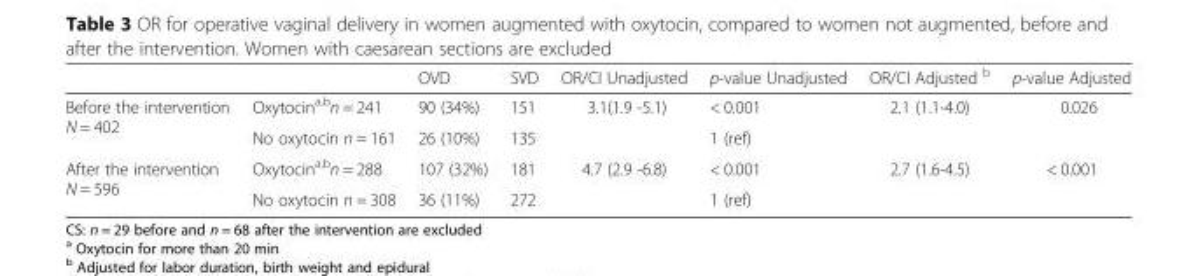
<table><thead><tr><td></td><td></td><td>OVD</td><td>SVD</td><td>OR/CI Unadjusted</td><td>p-value Unadjusted</td><td>OR/CI Adjusted <sup>b</sup></td><td>p-value Adjusted</td></tr></thead><tbody><tr><td rowspan="2">Before the intervention N = 402</td><td>Oxytocin<sup>a,b</sup>n = 241</td><td>90 (34%)</td><td>151</td><td>3.1(1.9 -5.1)</td><td>&lt; 0.001</td><td>2.1 (1.1-4.0)</td><td>0.026</td></tr><tr><td>No oxytocin n = 161</td><td>26 (10%)</td><td>135</td><td></td><td>1 (ref)</td><td></td><td></td></tr><tr><td rowspan="2">After the intervention N = 596</td><td>Oxytocin<sup>a,b</sup>n = 288</td><td>107 (32%)</td><td>181</td><td>4.7 (2.9 -6.8)</td><td>&lt; 0.001</td><td>2.7 (1.6-4.5)</td><td>&lt; 0.001</td></tr><tr><td>No oxytocin n = 308</td><td>36 (11%)</td><td>272</td><td></td><td>1 (ref)</td><td></td><td></td></tr></tbody></table>